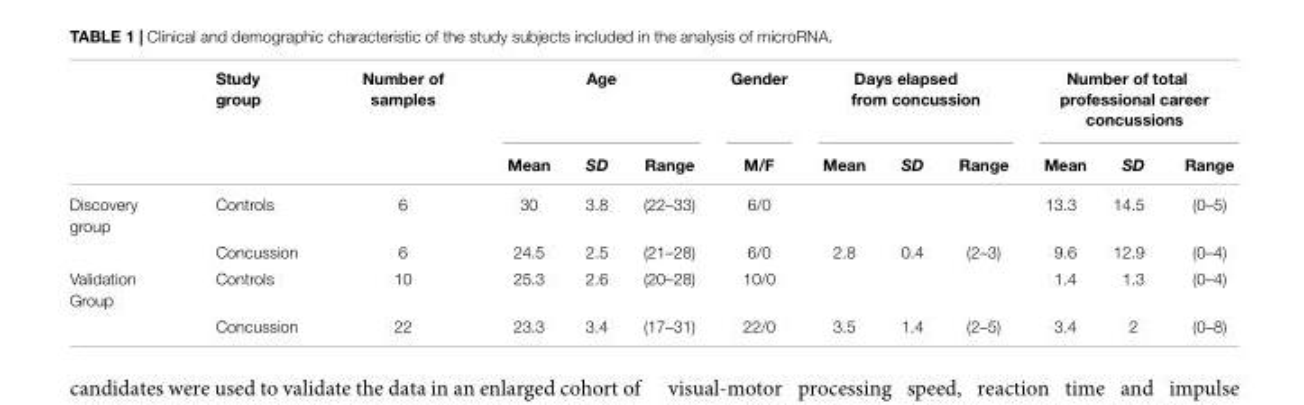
<table><thead><tr><td rowspan="2"></td><td rowspan="2">Study group</td><td rowspan="2">Number of samples</td><td colspan="3">Age</td><td rowspan="2">Gender M/F</td><td colspan="3">Days elapsed from concussion</td><td colspan="3">Number of total professional career concussions</td></tr><tr><td>Mean</td><td>SD</td><td>Range</td><td>Mean</td><td>SD</td><td>Range</td><td>Mean</td><td>SD</td><td>Range</td></tr></thead><tbody><tr><td rowspan="2">Discovery group</td><td>Controls</td><td>6</td><td>30</td><td>3.8</td><td>(22–33)</td><td>6/0</td><td></td><td></td><td></td><td>13.3</td><td>14.5</td><td>(0–5)</td></tr><tr><td>Concussion</td><td>6</td><td>24.5</td><td>2.5</td><td>(21–28)</td><td>6/0</td><td>2.8</td><td>0.4</td><td>(2–3)</td><td>9.6</td><td>12.9</td><td>(0–4)</td></tr><tr><td rowspan="2">Validation Group</td><td>Controls</td><td>10</td><td>25.3</td><td>2.6</td><td>(20–28)</td><td>10/0</td><td></td><td></td><td></td><td>1.4</td><td>1.3</td><td>(0–4)</td></tr><tr><td>Concussion</td><td>22</td><td>23.3</td><td>3.4</td><td>(17–31)</td><td>22/0</td><td>3.5</td><td>1.4</td><td>(2–5)</td><td>3.4</td><td>2</td><td>(0–8)</td></tr></tbody></table>